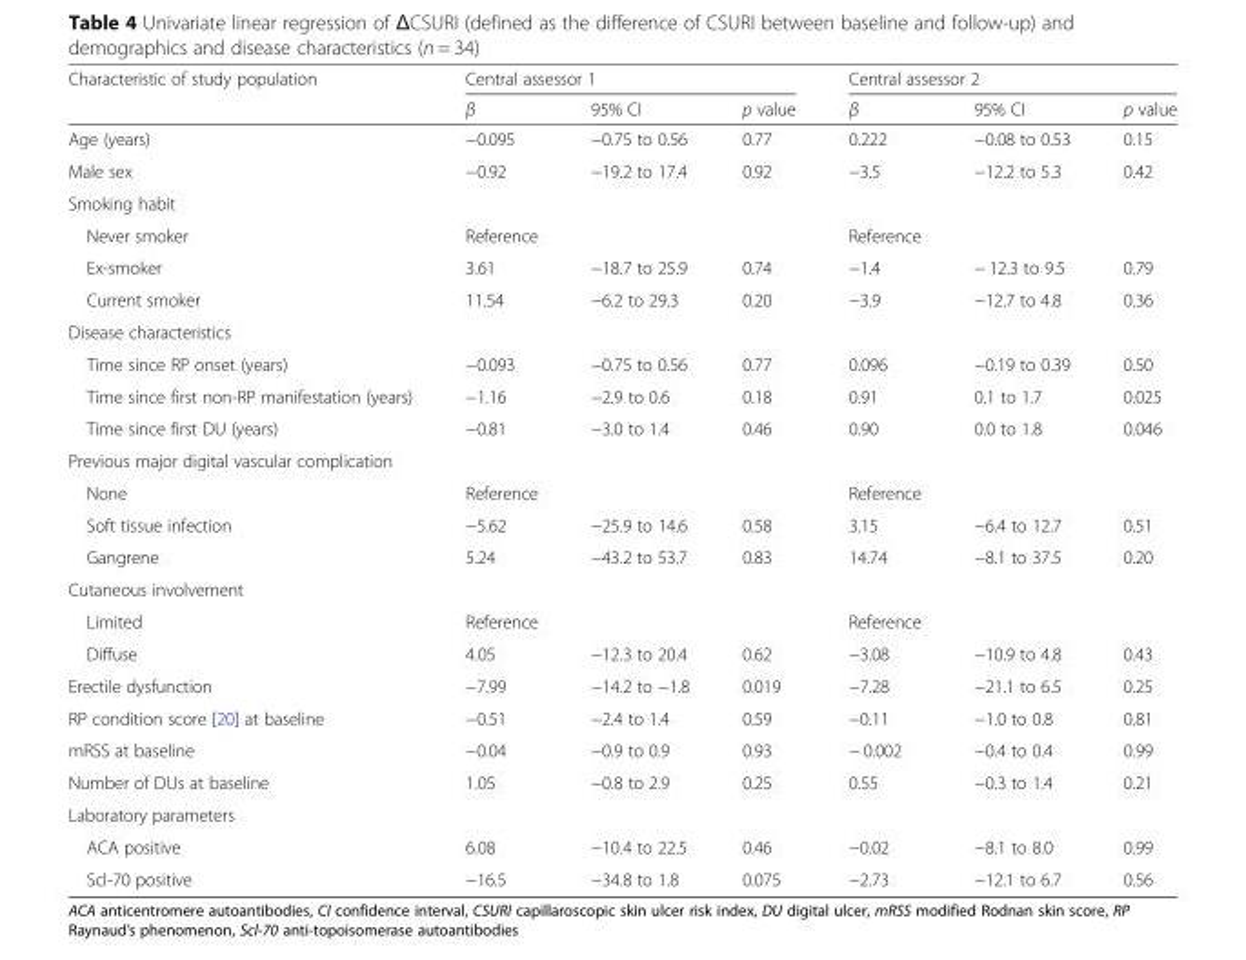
<table><thead><tr><td rowspan="2">Characteristic of study population</td><td colspan="3">Central assessor 1</td><td colspan="3">Central assessor 2</td></tr><tr><td>β</td><td>95% CI</td><td>p value</td><td>β</td><td>95% CI</td><td>p value</td></tr></thead><tbody><tr><td>Age (years)</td><td>−0.095</td><td>−0.75 to 0.56</td><td>0.77</td><td>0.222</td><td>−0.08 to 0.53</td><td>0.15</td></tr><tr><td>Male sex</td><td>−0.92</td><td>−19.2 to 17.4</td><td>0.92</td><td>−3.5</td><td>−12.2 to 5.3</td><td>0.42</td></tr><tr><td colspan="7">Smoking habit</td></tr><tr><td>Never smoker</td><td>Reference</td><td></td><td></td><td>Reference</td><td></td><td></td></tr><tr><td>Ex-smoker</td><td>3.61</td><td>−18.7 to 25.9</td><td>0.74</td><td>−1.4</td><td>− 12.3 to 9.5</td><td>0.79</td></tr><tr><td>Current smoker</td><td>11.54</td><td>−6.2 to 29.3</td><td>0.20</td><td>−3.9</td><td>−12.7 to 4.8</td><td>0.36</td></tr><tr><td colspan="7">Disease characteristics</td></tr><tr><td>Time since RP onset (years)</td><td>−0.093</td><td>−0.75 to 0.56</td><td>0.77</td><td>0.096</td><td>−0.19 to 0.39</td><td>0.50</td></tr><tr><td>Time since first non-RP manifestation (years)</td><td>−1.16</td><td>−2.9 to 0.6</td><td>0.18</td><td>0.91</td><td>0.1 to 1.7</td><td>0.025</td></tr><tr><td>Time since first DU (years)</td><td>−0.81</td><td>−3.0 to 1.4</td><td>0.46</td><td>0.90</td><td>0.0 to 1.8</td><td>0.046</td></tr><tr><td colspan="7">Previous major digital vascular complication</td></tr><tr><td>None</td><td>Reference</td><td></td><td></td><td>Reference</td><td></td><td></td></tr><tr><td>Soft tissue infection</td><td>−5.62</td><td>−25.9 to 14.6</td><td>0.58</td><td>3.15</td><td>−6.4 to 12.7</td><td>0.51</td></tr><tr><td>Gangrene</td><td>5.24</td><td>−43.2 to 53.7</td><td>0.83</td><td>14.74</td><td>−8.1 to 37.5</td><td>0.20</td></tr><tr><td colspan="7">Cutaneous involvement</td></tr><tr><td>Limited</td><td>Reference</td><td></td><td></td><td>Reference</td><td></td><td></td></tr><tr><td>Diffuse</td><td>4.05</td><td>−12.3 to 20.4</td><td>0.62</td><td>−3.08</td><td>−10.9 to 4.8</td><td>0.43</td></tr><tr><td>Erectile dysfunction</td><td>−7.99</td><td>−14.2 to −1.8</td><td>0.019</td><td>−7.28</td><td>−21.1 to 6.5</td><td>0.25</td></tr><tr><td>RP condition score [20] at baseline</td><td>−0.51</td><td>−2.4 to 1.4</td><td>0.59</td><td>−0.11</td><td>−1.0 to 0.8</td><td>0.81</td></tr><tr><td>mRSS at baseline</td><td>−0.04</td><td>−0.9 to 0.9</td><td>0.93</td><td>− 0.002</td><td>−0.4 to 0.4</td><td>0.99</td></tr><tr><td>Number of DUs at baseline</td><td>1.05</td><td>−0.8 to 2.9</td><td>0.25</td><td>0.55</td><td>−0.3 to 1.4</td><td>0.21</td></tr><tr><td colspan="7">Laboratory parameters</td></tr><tr><td>ACA positive</td><td>6.08</td><td>−10.4 to 22.5</td><td>0.46</td><td>−0.02</td><td>−8.1 to 8.0</td><td>0.99</td></tr><tr><td>Scl-70 positive</td><td>−16.5</td><td>−34.8 to 1.8</td><td>0.075</td><td>−2.73</td><td>−12.1 to 6.7</td><td>0.56</td></tr></tbody></table>